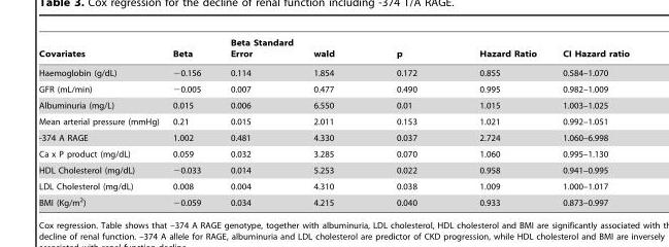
<table><thead><tr><td>Covariates</td><td>Beta</td><td>Beta Standard Error</td><td>wald</td><td>p</td><td>Hazard Ratio</td><td>CI Hazard ratio</td></tr></thead><tbody><tr><td>Haemoglobin (g/dL)</td><td>−0.156</td><td>0.114</td><td>1.854</td><td>0.172</td><td>0.855</td><td>0.584–1.070</td></tr><tr><td>GFR (mL/min)</td><td>−0.005</td><td>0.007</td><td>0.477</td><td>0.490</td><td>0.995</td><td>0.982–1.009</td></tr><tr><td>Albuminuria (mg/L)</td><td>0.015</td><td>0.006</td><td>6.550</td><td>0.01</td><td>1.015</td><td>1.003–1.025</td></tr><tr><td>Mean arterial pressure (mmHg)</td><td>0.21</td><td>0.015</td><td>2.011</td><td>0.153</td><td>1.021</td><td>0.992–1.051</td></tr><tr><td>-374 A RAGE</td><td>1.002</td><td>0.481</td><td>4.330</td><td>0.037</td><td>2.724</td><td>1.060–6.998</td></tr><tr><td>Ca x P product (mg/dL)</td><td>0.059</td><td>0.032</td><td>3.285</td><td>0.070</td><td>1.060</td><td>0.995–1.130</td></tr><tr><td>HDL Cholesterol (mg/dL)</td><td>−0.033</td><td>0.014</td><td>5.253</td><td>0.022</td><td>0.958</td><td>0.941–0.995</td></tr><tr><td>LDL Cholesterol (mg/dL)</td><td>0.008</td><td>0.004</td><td>4.310</td><td>0.038</td><td>1.009</td><td>1.000–1.017</td></tr><tr><td>BMI (Kg/m<sup>2</sup>)</td><td>−0.059</td><td>0.034</td><td>4.215</td><td>0.040</td><td>0.933</td><td>0.873–0.997</td></tr></tbody></table>